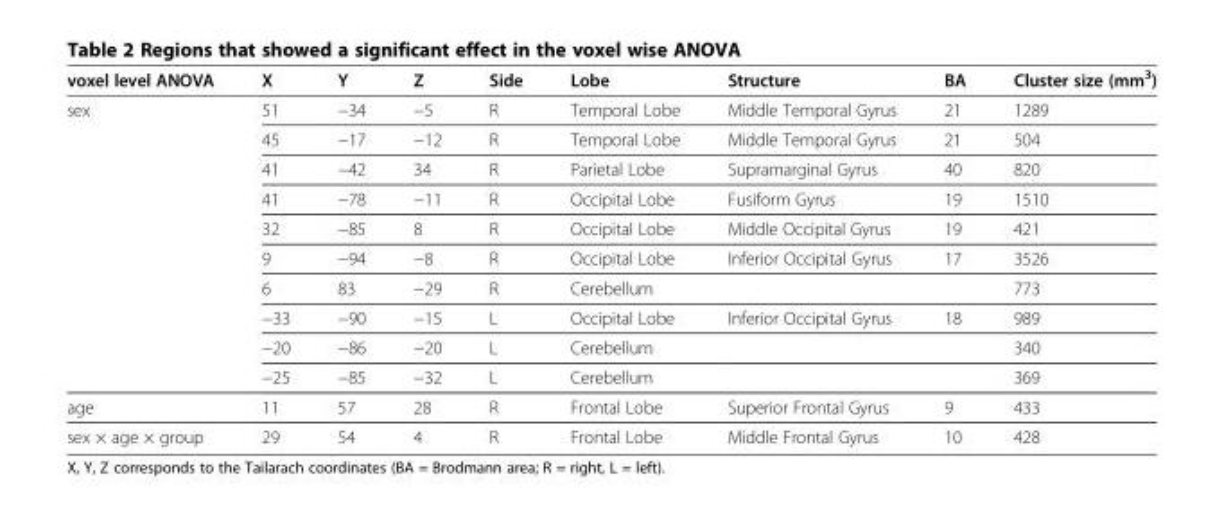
<table><thead><tr><td>voxel level ANOVA</td><td>X</td><td>Y</td><td>Z</td><td>Side</td><td>Lobe</td><td>Structure</td><td>BA</td><td>Cluster size (mm<sup>3</sup>)</td></tr></thead><tbody><tr><td rowspan="10">sex</td><td>51</td><td>−34</td><td>−5</td><td>R</td><td>Temporal Lobe</td><td>Middle Temporal Gyrus</td><td>21</td><td>1289</td></tr><tr><td>45</td><td>−17</td><td>−12</td><td>R</td><td>Temporal Lobe</td><td>Middle Temporal Gyrus</td><td>21</td><td>504</td></tr><tr><td>41</td><td>−42</td><td>34</td><td>R</td><td>Parietal Lobe</td><td>Supramarginal Gyrus</td><td>40</td><td>820</td></tr><tr><td>41</td><td>−78</td><td>−11</td><td>R</td><td>Occipital Lobe</td><td>Fusiform Gyrus</td><td>19</td><td>1510</td></tr><tr><td>32</td><td>−85</td><td>8</td><td>R</td><td>Occipital Lobe</td><td>Middle Occipital Gyrus</td><td>19</td><td>421</td></tr><tr><td>9</td><td>−94</td><td>−8</td><td>R</td><td>Occipital Lobe</td><td>Inferior Occipital Gyrus</td><td>17</td><td>3526</td></tr><tr><td>6</td><td>83</td><td>−29</td><td>R</td><td>Cerebellum</td><td></td><td></td><td>773</td></tr><tr><td>−33</td><td>−90</td><td>−15</td><td>L</td><td>Occipital Lobe</td><td>Inferior Occipital Gyrus</td><td>18</td><td>989</td></tr><tr><td>−20</td><td>−86</td><td>−20</td><td>L</td><td>Cerebellum</td><td></td><td></td><td>340</td></tr><tr><td>−25</td><td>−85</td><td>−32</td><td>L</td><td>Cerebellum</td><td></td><td></td><td>369</td></tr><tr><td>age</td><td>11</td><td>57</td><td>28</td><td>R</td><td>Frontal Lobe</td><td>Superior Frontal Gyrus</td><td>9</td><td>433</td></tr><tr><td>sex × age × group</td><td>29</td><td>54</td><td>4</td><td>R</td><td>Frontal Lobe</td><td>Middle Frontal Gyrus</td><td>10</td><td>428</td></tr></tbody></table>